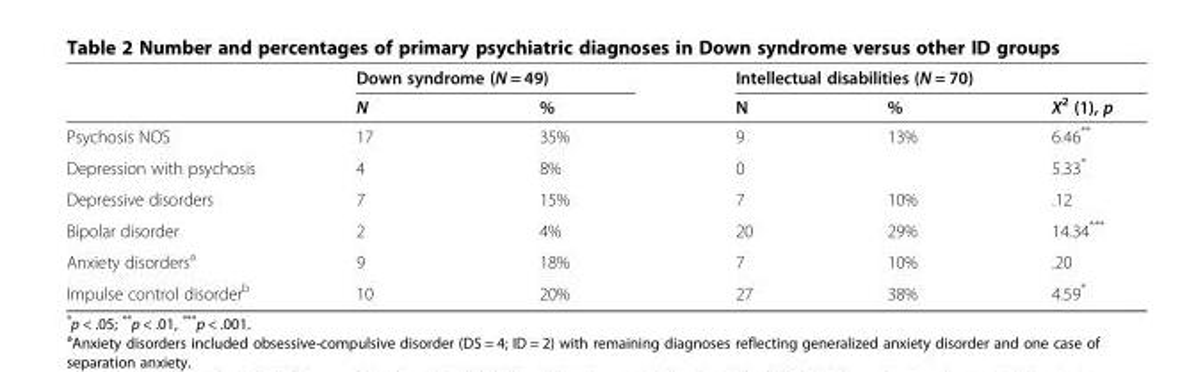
<table><thead><tr><td rowspan="2"></td><td colspan="2">Down syndrome (N = 49)</td><td colspan="3">Intellectual disabilities (N = 70)</td></tr><tr><td>N</td><td>%</td><td>N</td><td>%</td><td>X<sup>2</sup> (1), p</td></tr></thead><tbody><tr><td>Psychosis NOS</td><td>17</td><td>35%</td><td>9</td><td>13%</td><td>6.46**</td></tr><tr><td>Depression with psychosis</td><td>4</td><td>8%</td><td>0</td><td></td><td>5.33*</td></tr><tr><td>Depressive disorders</td><td>7</td><td>15%</td><td>7</td><td>10%</td><td>.12</td></tr><tr><td>Bipolar disorder</td><td>2</td><td>4%</td><td>20</td><td>29%</td><td>14.34***</td></tr><tr><td>Anxiety disorders<sup>a</sup></td><td>9</td><td>18%</td><td>7</td><td>10%</td><td>.20</td></tr><tr><td>Impulse control disorder<sup>b</sup></td><td>10</td><td>20%</td><td>27</td><td>38%</td><td>4.59*</td></tr></tbody></table>